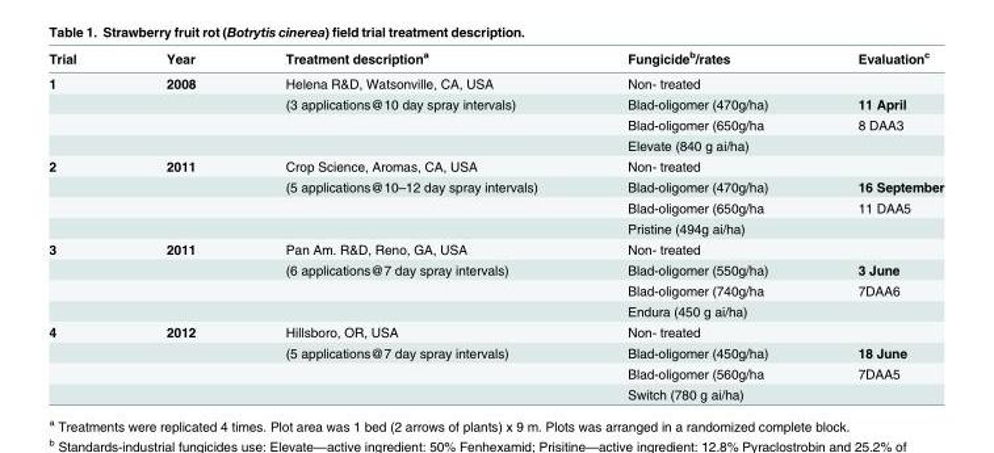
<table><thead><tr><td>Trial</td><td>Year</td><td>Treatment description<sup>a</sup></td><td>Fungicide<sup>b</sup>/rates</td><td>Evaluation<sup>c</sup></td></tr></thead><tbody><tr><td rowspan="4">1</td><td>2008</td><td>Helena R&amp;D, Watsonville, CA, USA</td><td>Non- treated</td><td></td></tr><tr><td></td><td>(3 applications@10 day spray intervals)</td><td>Blad-oligomer (470g/ha)</td><td>11 April</td></tr><tr><td></td><td></td><td>Blad-oligomer (650g/ha</td><td>8 DAA3</td></tr><tr><td></td><td></td><td>Elevate (840 g ai/ha)</td><td></td></tr><tr><td rowspan="4">2</td><td>2011</td><td>Crop Science, Aromas, CA, USA</td><td>Non- treated</td><td></td></tr><tr><td></td><td>(5 applications@10–12 day spray intervals)</td><td>Blad-oligomer (470g/ha)</td><td>16 September</td></tr><tr><td></td><td></td><td>Blad-oligomer (650g/ha</td><td>11 DAA5</td></tr><tr><td></td><td></td><td>Pristine (494g ai/ha)</td><td></td></tr><tr><td rowspan="4">3</td><td>2011</td><td>Pan Am. R&amp;D, Reno, GA, USA</td><td>Non- treated</td><td></td></tr><tr><td></td><td>(6 applications@7 day spray intervals)</td><td>Blad-oligomer (550g/ha)</td><td>3 June</td></tr><tr><td></td><td></td><td>Blad-oligomer (740g/ha</td><td>7DAA6</td></tr><tr><td></td><td></td><td>Endura (450 g ai/ha)</td><td></td></tr><tr><td rowspan="4">4</td><td>2012</td><td>Hillsboro, OR, USA</td><td>Non- treated</td><td></td></tr><tr><td></td><td>(5 applications@7 day spray intervals)</td><td>Blad-oligomer (450g/ha)</td><td>18 June</td></tr><tr><td></td><td></td><td>Blad-oligomer (560g/ha</td><td>7DAA5</td></tr><tr><td></td><td></td><td>Switch (780 g ai/ha)</td><td></td></tr></tbody></table>